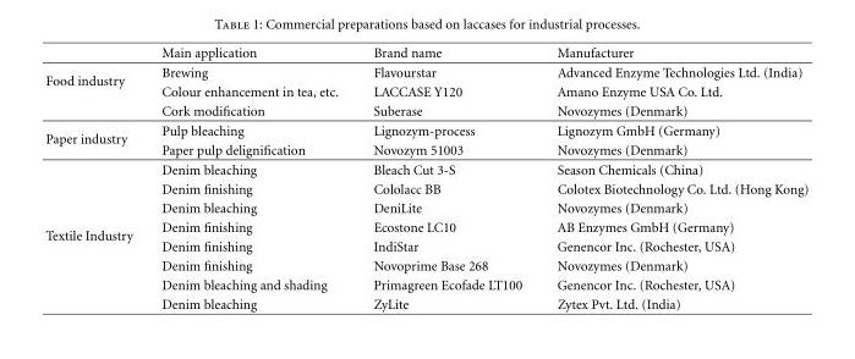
<table><thead><tr><td></td><td>Main application</td><td>Brand name</td><td>Manufacturer</td></tr></thead><tbody><tr><td rowspan="3">Food industry</td><td>Brewing</td><td>Flavourstar</td><td>Advanced Enzyme Technologies Ltd. (India)</td></tr><tr><td>Colour enhancement in tea, etc.</td><td>LACCASE Y120</td><td>Amano Enzyme USA Co. Ltd.</td></tr><tr><td>Cork modification</td><td>Suberase</td><td>Novozymes (Denmark)</td></tr><tr><td rowspan="2">Paper industry</td><td>Pulp bleaching</td><td>Lignozym-process</td><td>Lignozym GmbH (Germany)</td></tr><tr><td>Paper pulp delignification</td><td>Novozym 51003</td><td>Novozymes (Denmark)</td></tr><tr><td rowspan="8">Textile Industry</td><td>Denim bleaching</td><td>Bleach Cut 3-S</td><td>Season Chemicals (China)</td></tr><tr><td>Denim finishing</td><td>Cololacc BB</td><td>Colotex Biotechnology Co. Ltd. (Hong Kong)</td></tr><tr><td>Denim bleaching</td><td>DeniLite</td><td>Novozymes (Denmark)</td></tr><tr><td>Denim finishing</td><td>Ecostone LC10</td><td>AB Enzymes GmbH (Germany)</td></tr><tr><td>Denim finishing</td><td>IndiStar</td><td>Genencor Inc. (Rochester, USA)</td></tr><tr><td>Denim finishing</td><td>Novoprime Base 268</td><td>Novozymes (Denmark)</td></tr><tr><td>Denim bleaching and shading</td><td>Primagreen Ecofade LT100</td><td>Genencor Inc. (Rochester, USA)</td></tr><tr><td>Denim bleaching</td><td>ZyLite</td><td>Zytex Pvt. Ltd. (India)</td></tr></tbody></table>